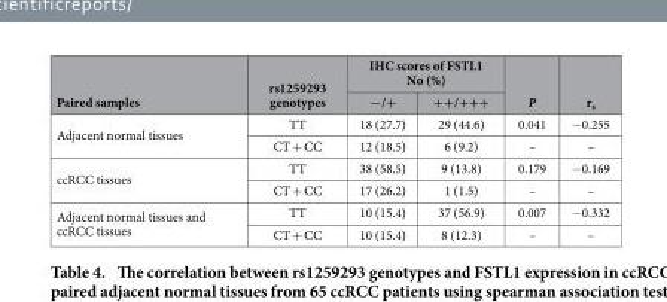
<table><thead><tr><td rowspan="2">Paired samples</td><td rowspan="2">rs1259293 genotypes</td><td colspan="2">IHC scores of FSTL1 No (%)</td><td rowspan="2">P</td><td rowspan="2">r<sub>s</sub></td></tr><tr><td>−/+</td><td>++/+++</td></tr></thead><tbody><tr><td rowspan="2">Adjacent normal tissues</td><td>TT</td><td>18 (27.7)</td><td>29 (44.6)</td><td>0.041</td><td>− 0.255</td></tr><tr><td>CT + CC</td><td>12 (18.5)</td><td>6 (9.2)</td><td>–</td><td>–</td></tr><tr><td rowspan="2">ccRCC tissues</td><td>TT</td><td>38 (58.5)</td><td>9 (13.8)</td><td>0.179</td><td>− 0.169</td></tr><tr><td>CT + CC</td><td>17 (26.2)</td><td>1 (1.5)</td><td>–</td><td>–</td></tr><tr><td rowspan="2">Adjacent normal tissues and ccRCC tissues</td><td>TT</td><td>10 (15.4)</td><td>37 (56.9)</td><td>0.007</td><td>− 0.332</td></tr><tr><td>CT + CC</td><td>10 (15.4)</td><td>8 (12.3)</td><td>–</td><td>–</td></tr></tbody></table>